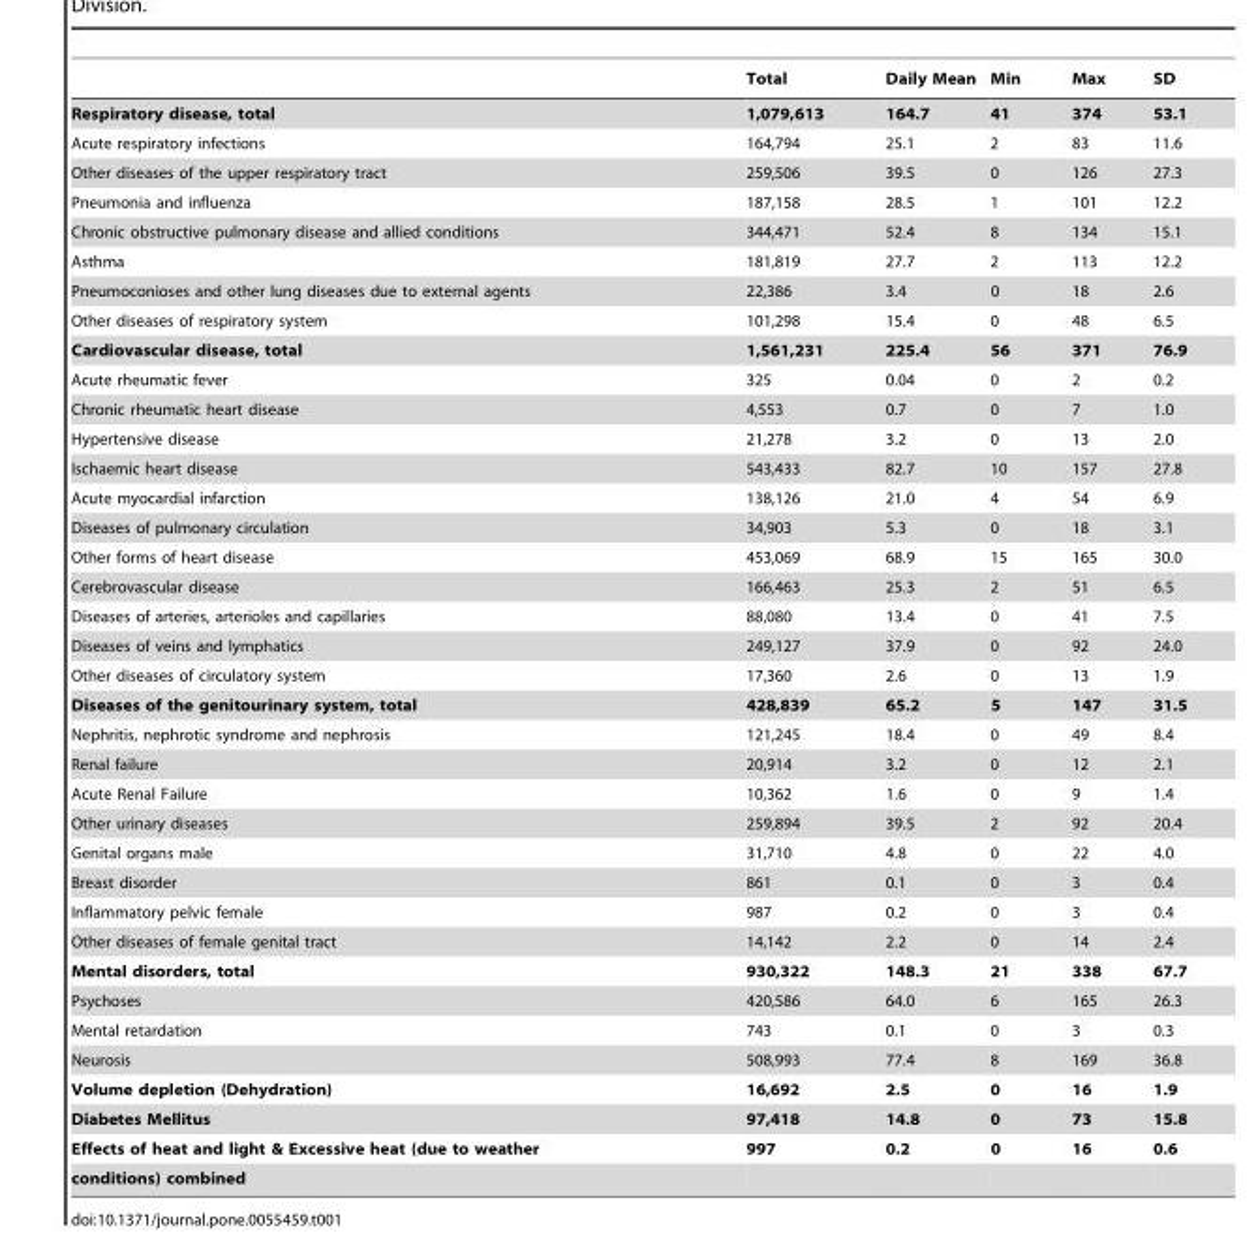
<table><thead><tr><td></td><td>Total</td><td>Daily Mean</td><td>Min</td><td>Max</td><td>SD</td></tr></thead><tbody><tr><td>Respiratory disease, total</td><td>1,079,613</td><td>164.7</td><td>41</td><td>374</td><td>53.1</td></tr><tr><td>Acute respiratory infections</td><td>164,794</td><td>25.1</td><td>2</td><td>83</td><td>11.6</td></tr><tr><td>Other diseases of the upper respiratory tract</td><td>259,506</td><td>39.5</td><td>0</td><td>126</td><td>27.3</td></tr><tr><td>Pneumonia and influenza</td><td>187,158</td><td>28.5</td><td>1</td><td>101</td><td>12.2</td></tr><tr><td>Chronic obstructive pulmonary disease and allied conditions</td><td>344,471</td><td>52.4</td><td>8</td><td>134</td><td>15.1</td></tr><tr><td>Asthma</td><td>181,819</td><td>27.7</td><td>2</td><td>113</td><td>12.2</td></tr><tr><td>Pneumoconioses and other lung diseases due to external agents</td><td>22,386</td><td>3.4</td><td>0</td><td>18</td><td>2.6</td></tr><tr><td>Other diseases of respiratory system</td><td>101,298</td><td>15.4</td><td>0</td><td>48</td><td>6.5</td></tr><tr><td>Cardiovascular disease, total</td><td>1,561,231</td><td>225.4</td><td>56</td><td>371</td><td>76.9</td></tr><tr><td>Acute rheumatic fever</td><td>325</td><td>0.04</td><td>0</td><td>2</td><td>0.2</td></tr><tr><td>Chronic rheumatic heart disease</td><td>4,553</td><td>0.7</td><td>0</td><td>7</td><td>1.0</td></tr><tr><td>Hypertensive disease</td><td>21,278</td><td>3.2</td><td>0</td><td>13</td><td>2.0</td></tr><tr><td>Ischaemic heart disease</td><td>543,433</td><td>82.7</td><td>10</td><td>157</td><td>27.8</td></tr><tr><td>Acute myocardial infarction</td><td>138,126</td><td>21.0</td><td>4</td><td>54</td><td>6.9</td></tr><tr><td>Diseases of pulmonary circulation</td><td>34,903</td><td>5.3</td><td>0</td><td>18</td><td>3.1</td></tr><tr><td>Other forms of heart disease</td><td>453,069</td><td>68.9</td><td>15</td><td>165</td><td>30.0</td></tr><tr><td>Cerebrovascular disease</td><td>166,463</td><td>25.3</td><td>2</td><td>51</td><td>6.5</td></tr><tr><td>Diseases of arteries, arterioles and capillaries</td><td>88,080</td><td>13.4</td><td>0</td><td>41</td><td>7.5</td></tr><tr><td>Diseases of veins and lymphatics</td><td>249,127</td><td>37.9</td><td>0</td><td>92</td><td>24.0</td></tr><tr><td>Other diseases of circulatory system</td><td>17,360</td><td>2.6</td><td>0</td><td>13</td><td>1.9</td></tr><tr><td>Diseases of the genitourinary system, total</td><td>428,839</td><td>65.2</td><td>5</td><td>147</td><td>31.5</td></tr><tr><td>Nephritis, nephrotic syndrome and nephrosis</td><td>121,245</td><td>18.4</td><td>0</td><td>49</td><td>8.4</td></tr><tr><td>Renal failure</td><td>20,914</td><td>3.2</td><td>0</td><td>12</td><td>2.1</td></tr><tr><td>Acute Renal Failure</td><td>10,362</td><td>1.6</td><td>0</td><td>9</td><td>1.4</td></tr><tr><td>Other urinary diseases</td><td>259,894</td><td>39.5</td><td>2</td><td>92</td><td>20.4</td></tr><tr><td>Genital organs male</td><td>31,710</td><td>4.8</td><td>0</td><td>22</td><td>4.0</td></tr><tr><td>Breast disorder</td><td>861</td><td>0.1</td><td>0</td><td>3</td><td>0.4</td></tr><tr><td>Inflammatory pelvic female</td><td>987</td><td>0.2</td><td>0</td><td>3</td><td>0.4</td></tr><tr><td>Other diseases of female genital tract</td><td>14,142</td><td>2.2</td><td>0</td><td>14</td><td>2.4</td></tr><tr><td>Mental disorders, total</td><td>930,322</td><td>148.3</td><td>21</td><td>338</td><td>67.7</td></tr><tr><td>Psychoses</td><td>420,586</td><td>64.0</td><td>6</td><td>165</td><td>26.3</td></tr><tr><td>Mental retardation</td><td>743</td><td>0.1</td><td>0</td><td>3</td><td>0.3</td></tr><tr><td>Neurosis</td><td>508,993</td><td>77.4</td><td>8</td><td>169</td><td>36.8</td></tr><tr><td>Volume depletion (Dehydration)</td><td>16,692</td><td>2.5</td><td>0</td><td>16</td><td>1.9</td></tr><tr><td>Diabetes Mellitus</td><td>97,418</td><td>14.8</td><td>0</td><td>73</td><td>15.8</td></tr><tr><td>Effects of heat and light &amp; Excessive heat (due to weather</td><td>997</td><td>0.2</td><td>0</td><td>16</td><td>0.6</td></tr><tr><td>conditions) combined</td><td></td><td></td><td></td><td></td><td></td></tr></tbody></table>